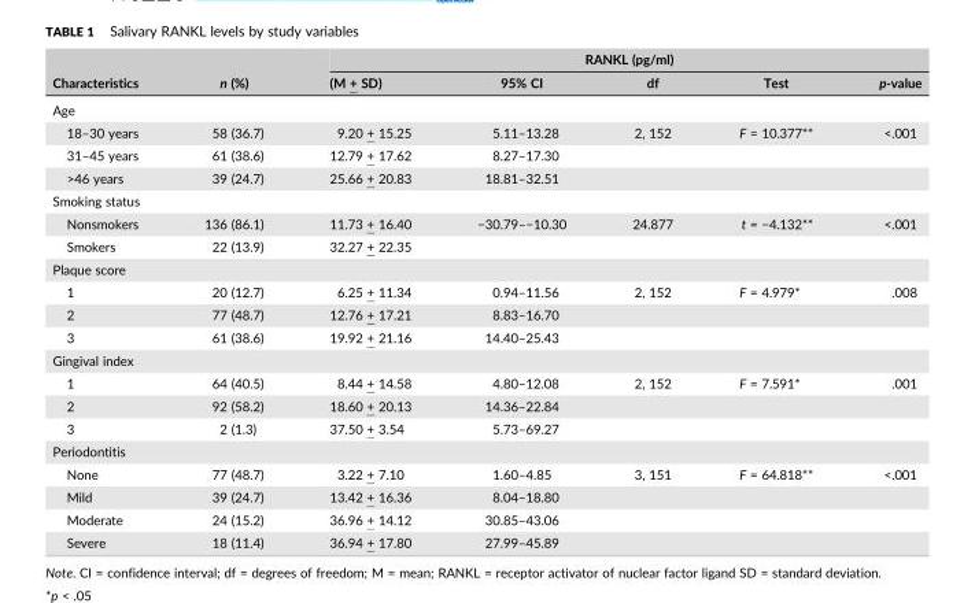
<table><thead><tr><td rowspan="2">Characteristics</td><td rowspan="2">n (%)</td><td colspan="5">RANKL (pg/ml)</td></tr><tr><td>(M + SD)</td><td>95% CI</td><td>df</td><td>Test</td><td>p‐value</td></tr></thead><tbody><tr><td colspan="7">Age</td></tr><tr><td>18–30 years</td><td>58 (36.7)</td><td>9.20 + 15.25</td><td>5.11–13.28</td><td>2, 152</td><td>F = 10.377**</td><td>&lt;.001</td></tr><tr><td>31–45 years</td><td>61 (38.6)</td><td>12.79 + 17.62</td><td>8.27–17.30</td><td></td><td></td><td></td></tr><tr><td>&gt;46 years</td><td>39 (24.7)</td><td>25.66 + 20.83</td><td>18.81–32.51</td><td></td><td></td><td></td></tr><tr><td colspan="7">Smoking status</td></tr><tr><td>Nonsmokers</td><td>136 (86.1)</td><td>11.73 + 16.40</td><td>−30.79–−10.30</td><td>24.877</td><td>t = −4.132**</td><td>&lt;.001</td></tr><tr><td>Smokers</td><td>22 (13.9)</td><td>32.27 + 22.35</td><td></td><td></td><td></td><td></td></tr><tr><td colspan="7">Plaque score</td></tr><tr><td>1</td><td>20 (12.7)</td><td>6.25 + 11.34</td><td>0.94–11.56</td><td>2, 152</td><td>F = 4.979*</td><td>.008</td></tr><tr><td>2</td><td>77 (48.7)</td><td>12.76 + 17.21</td><td>8.83–16.70</td><td></td><td></td><td></td></tr><tr><td>3</td><td>61 (38.6)</td><td>19.92 + 21.16</td><td>14.40–25.43</td><td></td><td></td><td></td></tr><tr><td colspan="7">Gingival index</td></tr><tr><td>1</td><td>64 (40.5)</td><td>8.44 + 14.58</td><td>4.80–12.08</td><td>2, 152</td><td>F = 7.591*</td><td>.001</td></tr><tr><td>2</td><td>92 (58.2)</td><td>18.60 + 20.13</td><td>14.36–22.84</td><td></td><td></td><td></td></tr><tr><td>3</td><td>2 (1.3)</td><td>37.50 + 3.54</td><td>5.73–69.27</td><td></td><td></td><td></td></tr><tr><td colspan="7">Periodontitis</td></tr><tr><td>None</td><td>77 (48.7)</td><td>3.22 + 7.10</td><td>1.60–4.85</td><td>3, 151</td><td>F = 64.818**</td><td>&lt;.001</td></tr><tr><td>Mild</td><td>39 (24.7)</td><td>13.42 + 16.36</td><td>8.04–18.80</td><td></td><td></td><td></td></tr><tr><td>Moderate</td><td>24 (15.2)</td><td>36.96 + 14.12</td><td>30.85–43.06</td><td></td><td></td><td></td></tr><tr><td>Severe</td><td>18 (11.4)</td><td>36.94 + 17.80</td><td>27.99–45.89</td><td></td><td></td><td></td></tr></tbody></table>